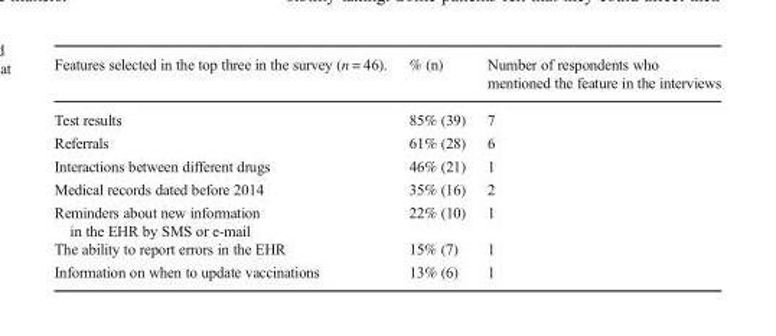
<table><thead><tr><td>Features selected in the top three in the survey (n = 46).</td><td>% (n)</td><td>Number of respondents who mentioned the feature in the interviews</td></tr></thead><tbody><tr><td>Test results</td><td>85% (39)</td><td>7</td></tr><tr><td>Referrals</td><td>61% (28)</td><td>6</td></tr><tr><td>Interactions between different drugs</td><td>46% (21)</td><td>1</td></tr><tr><td>Medical records dated before 2014</td><td>35% (16)</td><td>2</td></tr><tr><td>Reminders about new information in the EHR by SMS or e-mail</td><td>22% (10)</td><td>1</td></tr><tr><td>The ability to report errors in the EHR</td><td>15% (7)</td><td>1</td></tr><tr><td>Information on when to update vaccinations</td><td>13% (6)</td><td>1</td></tr></tbody></table>